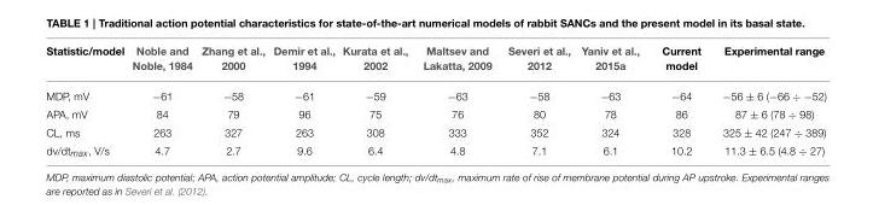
<table><thead><tr><td>Statistic/model</td><td>Noble and Noble, 1984</td><td>Zhang et al., 2000</td><td>Demir et al., 1994</td><td>Kurata et al., 2002</td><td>Maltsev and Lakatta, 2009</td><td>Severi et al., 2012</td><td>Yaniv et al., 2015a</td><td>Current model</td><td>Experimental range</td></tr></thead><tbody><tr><td>MDP, mV</td><td>−61</td><td>−58</td><td>−61</td><td>−59</td><td>−63</td><td>−58</td><td>−63</td><td>−64</td><td>−56 ± 6 (−66 ÷ −52)</td></tr><tr><td>APA, mV</td><td>84</td><td>79</td><td>96</td><td>75</td><td>76</td><td>80</td><td>78</td><td>86</td><td>87 ± 6 (78 ÷ 98)</td></tr><tr><td>CL, ms</td><td>263</td><td>327</td><td>263</td><td>308</td><td>333</td><td>352</td><td>324</td><td>328</td><td>325 ± 42 (247 ÷ 389)</td></tr><tr><td>dv/dt<sub>max</sub>, V/s</td><td>4.7</td><td>2.7</td><td>9.6</td><td>6.4</td><td>4.8</td><td>7.1</td><td>6.1</td><td>10.2</td><td>11.3 ± 6.5 (4.8 ÷ 27)</td></tr></tbody></table>